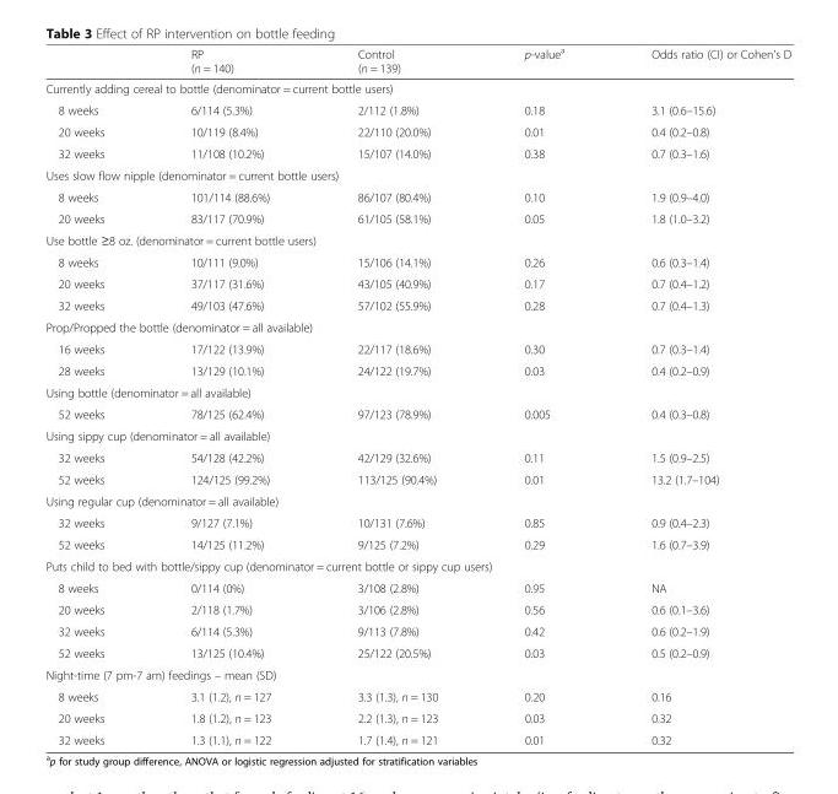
<table><thead><tr><td></td><td>RP (n = 140)</td><td>Control (n = 139)</td><td>p-value<sup>a</sup></td><td>Odds ratio (CI) or Cohen’s D</td></tr></thead><tbody><tr><td colspan="5">Currently adding cereal to bottle (denominator = current bottle users)</td></tr><tr><td>8 weeks</td><td>6/114 (5.3%)</td><td>2/112 (1.8%)</td><td>0.18</td><td>3.1 (0.6–15.6)</td></tr><tr><td>20 weeks</td><td>10/119 (8.4%)</td><td>22/110 (20.0%)</td><td>0.01</td><td>0.4 (0.2–0.8)</td></tr><tr><td>32 weeks</td><td>11/108 (10.2%)</td><td>15/107 (14.0%)</td><td>0.38</td><td>0.7 (0.3–1.6)</td></tr><tr><td colspan="5">Uses slow flow nipple (denominator = current bottle users)</td></tr><tr><td>8 weeks</td><td>101/114 (88.6%)</td><td>86/107 (80.4%)</td><td>0.10</td><td>1.9 (0.9–4.0)</td></tr><tr><td>20 weeks</td><td>83/117 (70.9%)</td><td>61/105 (58.1%)</td><td>0.05</td><td>1.8 (1.0–3.2)</td></tr><tr><td colspan="5">Use bottle ≥8 oz. (denominator = current bottle users)</td></tr><tr><td>8 weeks</td><td>10/111 (9.0%)</td><td>15/106 (14.1%)</td><td>0.26</td><td>0.6 (0.3–1.4)</td></tr><tr><td>20 weeks</td><td>37/117 (31.6%)</td><td>43/105 (40.9%)</td><td>0.17</td><td>0.7 (0.4–1.2)</td></tr><tr><td>32 weeks</td><td>49/103 (47.6%)</td><td>57/102 (55.9%)</td><td>0.28</td><td>0.7 (0.4–1.3)</td></tr><tr><td colspan="5">Prop/Propped the bottle (denominator = all available)</td></tr><tr><td>16 weeks</td><td>17/122 (13.9%)</td><td>22/117 (18.6%)</td><td>0.30</td><td>0.7 (0.3–1.4)</td></tr><tr><td>28 weeks</td><td>13/129 (10.1%)</td><td>24/122 (19.7%)</td><td>0.03</td><td>0.4 (0.2–0.9)</td></tr><tr><td colspan="5">Using bottle (denominator = all available)</td></tr><tr><td>52 weeks</td><td>78/125 (62.4%)</td><td>97/123 (78.9%)</td><td>0.005</td><td>0.4 (0.3–0.8)</td></tr><tr><td colspan="5">Using sippy cup (denominator = all available)</td></tr><tr><td>32 weeks</td><td>54/128 (42.2%)</td><td>42/129 (32.6%)</td><td>0.11</td><td>1.5 (0.9–2.5)</td></tr><tr><td>52 weeks</td><td>124/125 (99.2%)</td><td>113/125 (90.4%)</td><td>0.01</td><td>13.2 (1.7–104)</td></tr><tr><td colspan="5">Using regular cup (denominator = all available)</td></tr><tr><td>32 weeks</td><td>9/127 (7.1%)</td><td>10/131 (7.6%)</td><td>0.85</td><td>0.9 (0.4–2.3)</td></tr><tr><td>52 weeks</td><td>14/125 (11.2%)</td><td>9/125 (7.2%)</td><td>0.29</td><td>1.6 (0.7–3.9)</td></tr><tr><td colspan="5">Puts child to bed with bottle/sippy cup (denominator = current bottle or sippy cup users)</td></tr><tr><td>8 weeks</td><td>0/114 (0%)</td><td>3/108 (2.8%)</td><td>0.95</td><td>NA</td></tr><tr><td>20 weeks</td><td>2/118 (1.7%)</td><td>3/106 (2.8%)</td><td>0.56</td><td>0.6 (0.1–3.6)</td></tr><tr><td>32 weeks</td><td>6/114 (5.3%)</td><td>9/113 (7.8%)</td><td>0.42</td><td>0.6 (0.2–1.9)</td></tr><tr><td>52 weeks</td><td>13/125 (10.4%)</td><td>25/122 (20.5%)</td><td>0.03</td><td>0.5 (0.2–0.9)</td></tr><tr><td colspan="5">Night-time (7 pm-7 am) feedings – mean (SD)</td></tr><tr><td>8 weeks</td><td>3.1 (1.2), n = 127</td><td>3.3 (1.3), n = 130</td><td>0.20</td><td>0.16</td></tr><tr><td>20 weeks</td><td>1.8 (1.2), n = 123</td><td>2.2 (1.3), n = 123</td><td>0.03</td><td>0.32</td></tr><tr><td>32 weeks</td><td>1.3 (1.1), n = 122</td><td>1.7 (1.4), n = 121</td><td>0.01</td><td>0.32</td></tr></tbody></table>